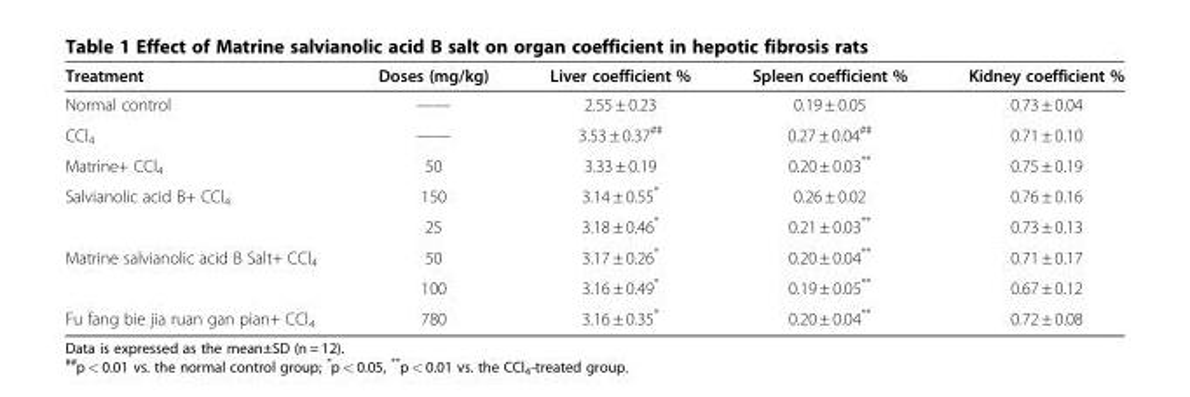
<table><thead><tr><td>Treatment</td><td>Doses (mg/kg)</td><td>Liver coefficient %</td><td>Spleen coefficient %</td><td>Kidney coefficient %</td></tr></thead><tbody><tr><td>Normal control</td><td>——</td><td>2.55 ± 0.23</td><td>0.19 ± 0.05</td><td>0.73 ± 0.04</td></tr><tr><td>CCl<sub>4</sub></td><td>——</td><td>3.53 ± 0.37<sup>##</sup></td><td>0.27 ± 0.04<sup>##</sup></td><td>0.71 ± 0.10</td></tr><tr><td>Matrine+ CCl<sub>4</sub></td><td>50</td><td>3.33 ± 0.19</td><td>0.20 ± 0.03**</td><td>0.75 ± 0.19</td></tr><tr><td rowspan="2">Salvianolic acid B+ CCl<sub>4</sub></td><td>150</td><td>3.14 ± 0.55*</td><td>0.26 ± 0.02</td><td>0.76 ± 0.16</td></tr><tr><td>25</td><td>3.18 ± 0.46*</td><td>0.21 ± 0.03**</td><td>0.73 ± 0.13</td></tr><tr><td rowspan="2">Matrine salvianolic acid B Salt+ CCl<sub>4</sub></td><td>50</td><td>3.17 ± 0.26*</td><td>0.20 ± 0.04**</td><td>0.71 ± 0.17</td></tr><tr><td>100</td><td>3.16 ± 0.49*</td><td>0.19 ± 0.05**</td><td>0.67 ± 0.12</td></tr><tr><td>Fu fang bie jia ruan gan pian+ CCl<sub>4</sub></td><td>780</td><td>3.16 ± 0.35*</td><td>0.20 ± 0.04**</td><td>0.72 ± 0.08</td></tr></tbody></table>